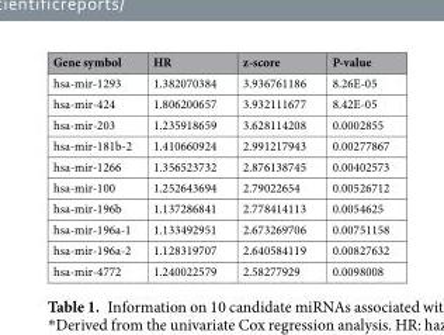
<table><thead><tr><td>Gene symbol</td><td>HR</td><td>z-score</td><td>P-value</td></tr></thead><tbody><tr><td>hsa-mir-1293</td><td>1.382070384</td><td>3.936761186</td><td>8.26E-05</td></tr><tr><td>hsa-mir-424</td><td>1.806200657</td><td>3.932111677</td><td>8.42E-05</td></tr><tr><td>hsa-mir-203</td><td>1.235918659</td><td>3.628114208</td><td>0.0002855</td></tr><tr><td>hsa-mir-181b-2</td><td>1.410660924</td><td>2.991217943</td><td>0.00277867</td></tr><tr><td>hsa-mir-1266</td><td>1.356523732</td><td>2.876138745</td><td>0.00402573</td></tr><tr><td>hsa-mir-100</td><td>1.252643694</td><td>2.79022654</td><td>0.00526712</td></tr><tr><td>hsa-mir-196b</td><td>1.137286841</td><td>2.778414113</td><td>0.0054625</td></tr><tr><td>hsa-mir-196a-1</td><td>1.133492951</td><td>2.673269706</td><td>0.00751158</td></tr><tr><td>hsa-mir-196a-2</td><td>1.128319707</td><td>2.640584119</td><td>0.00827632</td></tr><tr><td>hsa-mir-4772</td><td>1.240022579</td><td>2.58277929</td><td>0.0098008</td></tr></tbody></table>